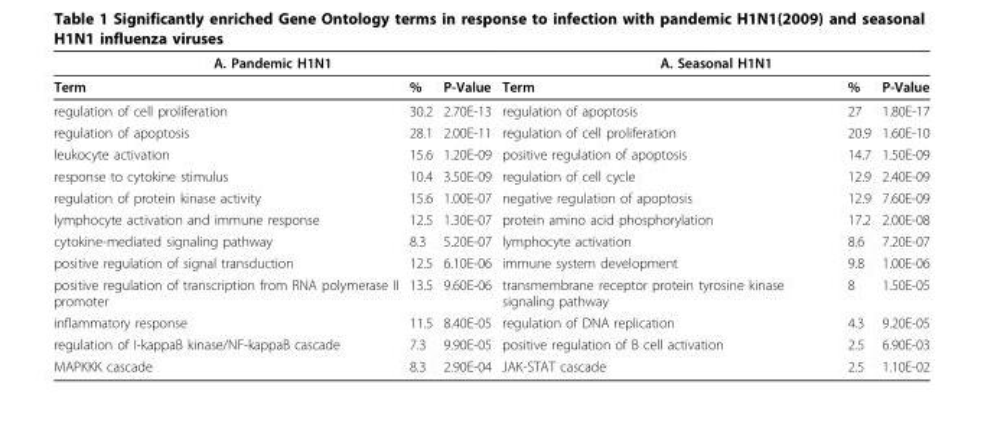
<table><thead><tr><td colspan="3">A. Pandemic H1N1</td><td colspan="3">A. Seasonal H1N1</td></tr><tr><td>Term</td><td>%</td><td>P-Value</td><td>Term</td><td>%</td><td>P-Value</td></tr></thead><tbody><tr><td>regulation of cell proliferation</td><td>30.2</td><td>2.70E-13</td><td>regulation of apoptosis</td><td>27</td><td>1.80E-17</td></tr><tr><td>regulation of apoptosis</td><td>28.1</td><td>2.00E-11</td><td>regulation of cell proliferation</td><td>20.9</td><td>1.60E-10</td></tr><tr><td>leukocyte activation</td><td>15.6</td><td>1.20E-09</td><td>positive regulation of apoptosis</td><td>14.7</td><td>1.50E-09</td></tr><tr><td>response to cytokine stimulus</td><td>10.4</td><td>3.50E-09</td><td>regulation of cell cycle</td><td>12.9</td><td>2.40E-09</td></tr><tr><td>regulation of protein kinase activity</td><td>15.6</td><td>1.00E-07</td><td>negative regulation of apoptosis</td><td>12.9</td><td>7.60E-09</td></tr><tr><td>lymphocyte activation and immune response</td><td>12.5</td><td>1.30E-07</td><td>protein amino acid phosphorylation</td><td>17.2</td><td>2.00E-08</td></tr><tr><td>cytokine-mediated signaling pathway</td><td>8.3</td><td>5.20E-07</td><td>lymphocyte activation</td><td>8.6</td><td>7.20E-07</td></tr><tr><td>positive regulation of signal transduction</td><td>12.5</td><td>6.10E-06</td><td>immune system development</td><td>9.8</td><td>1.00E-06</td></tr><tr><td>positive regulation of transcription from RNA polymerase II promoter</td><td>13.5</td><td>9.60E-06</td><td>transmembrane receptor protein tyrosine kinase signaling pathway</td><td>8</td><td>1.50E-05</td></tr><tr><td>inflammatory response</td><td>11.5</td><td>8.40E-05</td><td>regulation of DNA replication</td><td>4.3</td><td>9.20E-05</td></tr><tr><td>regulation of I-kappaB kinase/NF-kappaB cascade</td><td>7.3</td><td>9.90E-05</td><td>positive regulation of B cell activation</td><td>2.5</td><td>6.90E-03</td></tr><tr><td>MAPKKK cascade</td><td>8.3</td><td>2.90E-04</td><td>JAK-STAT cascade</td><td>2.5</td><td>1.10E-02</td></tr></tbody></table>